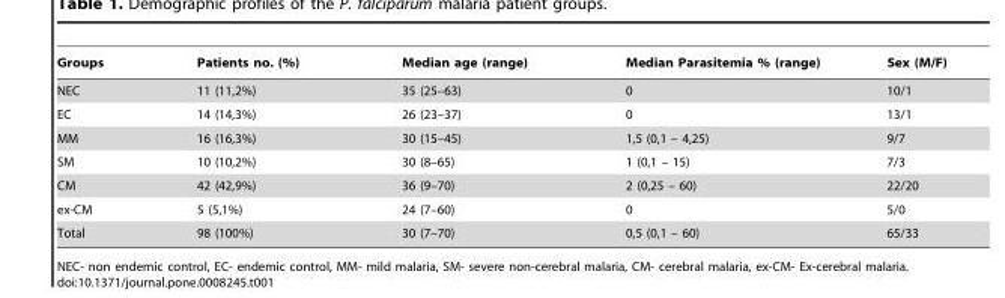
<table><thead><tr><td>Groups</td><td>Patients no. (%)</td><td>Median age (range)</td><td>Median Parasitemia % (range)</td><td>Sex (M/F)</td></tr></thead><tbody><tr><td>NEC</td><td>11 (11,2%)</td><td>35 (25–63)</td><td>0</td><td>10/1</td></tr><tr><td>EC</td><td>14 (14,3%)</td><td>26 (23–37)</td><td>0</td><td>13/1</td></tr><tr><td>MM</td><td>16 (16,3%)</td><td>30 (15–45)</td><td>1,5 (0,1 – 4,25)</td><td>9/7</td></tr><tr><td>SM</td><td>10 (10,2%)</td><td>30 (8–65)</td><td>1 (0,1 – 15)</td><td>7/3</td></tr><tr><td>CM</td><td>42 (42,9%)</td><td>36 (9–70)</td><td>2 (0,25 – 60)</td><td>22/20</td></tr><tr><td>ex-CM</td><td>5 (5,1%)</td><td>24 (7–60)</td><td>0</td><td>5/0</td></tr><tr><td>Total</td><td>98 (100%)</td><td>30 (7–70)</td><td>0,5 (0,1 – 60)</td><td>65/33</td></tr></tbody></table>